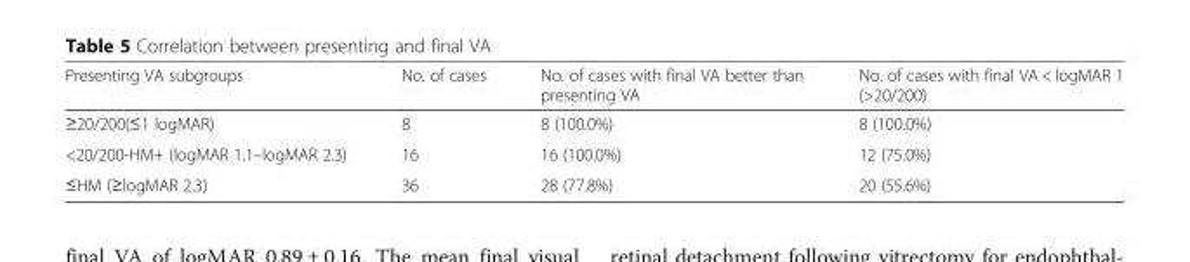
<table><thead><tr><td>Presenting VA subgroups</td><td>No. of cases</td><td>No. of cases with final VA better than presenting VA</td><td>No. of cases with final VA &lt; logMAR 1 (&gt;20/200)</td></tr></thead><tbody><tr><td>≥20/200(≤1 logMAR)</td><td>8</td><td>8 (100.0%)</td><td>8 (100.0%)</td></tr><tr><td>&lt;20/200-HM+ (logMAR 1.1–logMAR 2.3)</td><td>16</td><td>16 (100.0%)</td><td>12 (75.0%)</td></tr><tr><td>≤HM (≥logMAR 2.3)</td><td>36</td><td>28 (77.8%)</td><td>20 (55.6%)</td></tr></tbody></table>